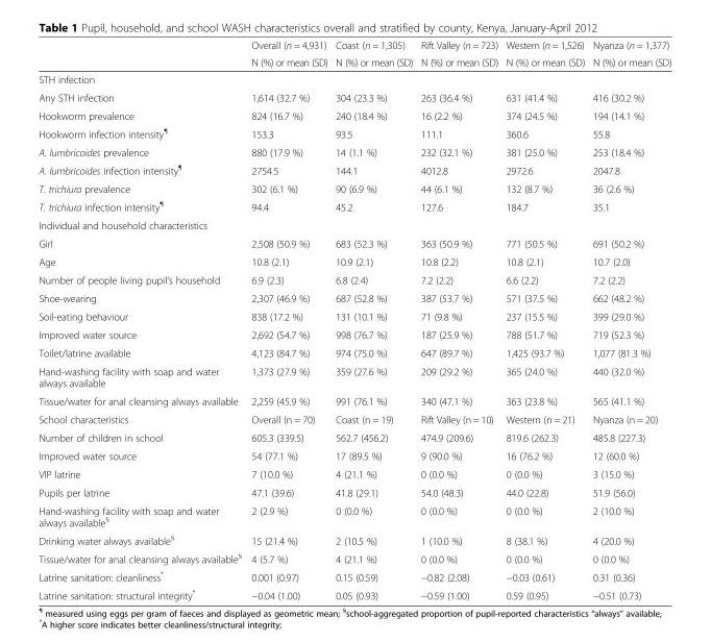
<table><thead><tr><td rowspan="2"></td><td rowspan="2">Overall (n = 4,931) N (%) or mean (SD)</td><td rowspan="2">Coast (n = 1,305) N (%) or mean (SD)</td><td rowspan="2">Rift Valley (n = 723) N (%) or mean (SD)</td><td rowspan="2">Western (n = 1,526) N (%) or mean (SD)</td><td rowspan="2">Nyanza (n = 1,377) N (%) or mean (SD)</td></tr><tr></tr></thead><tbody><tr><td colspan="6">STH infection</td></tr><tr><td>Any STH infection</td><td>1,614 (32.7 %)</td><td>304 (23.3 %)</td><td>263 (36.4 %)</td><td>631 (41.4 %)</td><td>416 (30.2 %)</td></tr><tr><td>Hookworm prevalence</td><td>824 (16.7 %)</td><td>240 (18.4 %)</td><td>16 (2.2 %)</td><td>374 (24.5 %)</td><td>194 (14.1 %)</td></tr><tr><td>Hookworm infection intensity<sup>¶</sup></td><td>153.3</td><td>93.5</td><td>111.1</td><td>360.6</td><td>55.8</td></tr><tr><td>A. lumbricoides prevalence</td><td>880 (17.9 %)</td><td>14 (1.1 %)</td><td>232 (32.1 %)</td><td>381 (25.0 %)</td><td>253 (18.4 %)</td></tr><tr><td>A. lumbricoides infection intensity<sup>¶</sup></td><td>2754.5</td><td>144.1</td><td>4012.8</td><td>2972.6</td><td>2047.8</td></tr><tr><td>T. trichiura prevalence</td><td>302 (6.1 %)</td><td>90 (6.9 %)</td><td>44 (6.1 %)</td><td>132 (8.7 %)</td><td>36 (2.6 %)</td></tr><tr><td>T. trichiura infection intensity<sup>¶</sup></td><td>94.4</td><td>45.2</td><td>127.6</td><td>184.7</td><td>35.1</td></tr><tr><td colspan="6">Individual and household characteristics</td></tr><tr><td>Girl</td><td>2,508 (50.9 %)</td><td>683 (52.3 %)</td><td>363 (50.9 %)</td><td>771 (50.5 %)</td><td>691 (50.2 %)</td></tr><tr><td>Age</td><td>10.8 (2.1)</td><td>10.9 (2.1)</td><td>10.8 (2.2)</td><td>10.8 (2.1)</td><td>10.7 (2.0)</td></tr><tr><td>Number of people living pupil’s household</td><td>6.9 (2.3)</td><td>6.8 (2.4)</td><td>7.2 (2.2)</td><td>6.6 (2.2)</td><td>7.2 (2.2)</td></tr><tr><td>Shoe-wearing</td><td>2,307 (46.9 %)</td><td>687 (52.8 %)</td><td>387 (53.7 %)</td><td>571 (37.5 %)</td><td>662 (48.2 %)</td></tr><tr><td>Soil-eating behaviour</td><td>838 (17.2 %)</td><td>131 (10.1 %)</td><td>71 (9.8 %)</td><td>237 (15.5 %)</td><td>399 (29.0 %)</td></tr><tr><td>Improved water source</td><td>2,692 (54.7 %)</td><td>998 (76.7 %)</td><td>187 (25.9 %)</td><td>788 (51.7 %)</td><td>719 (52.3 %)</td></tr><tr><td>Toilet/latrine available</td><td>4,123 (84.7 %)</td><td>974 (75.0 %)</td><td>647 (89.7 %)</td><td>1,425 (93.7 %)</td><td>1,077 (81.3 %)</td></tr><tr><td>Hand-washing facility with soap and water always available</td><td>1,373 (27.9 %)</td><td>359 (27.6 %)</td><td>209 (29.2 %)</td><td>365 (24.0 %)</td><td>440 (32.0 %)</td></tr><tr><td>Tissue/water for anal cleansing always available</td><td>2,259 (45.9 %)</td><td>991 (76.1 %)</td><td>340 (47.1 %)</td><td>363 (23.8 %)</td><td>565 (41.1 %)</td></tr><tr><td>School characteristics</td><td>Overall (n = 70)</td><td>Coast (n = 19)</td><td>Rift Valley (n = 10)</td><td>Western (n = 21)</td><td>Nyanza (n = 20)</td></tr><tr><td>Number of children in school</td><td>605.3 (339.5)</td><td>562.7 (456.2)</td><td>474.9 (209.6)</td><td>819.6 (262.3)</td><td>485.8 (227.3)</td></tr><tr><td>Improved water source</td><td>54 (77.1 %)</td><td>17 (89.5 %)</td><td>9 (90.0 %)</td><td>16 (76.2 %)</td><td>12 (60.0 %)</td></tr><tr><td>VIP latrine</td><td>7 (10.0 %)</td><td>4 (21.1 %)</td><td>0 (0.0 %)</td><td>0 (0.0 %)</td><td>3 (15.0 %)</td></tr><tr><td>Pupils per latrine</td><td>47.1 (39.6)</td><td>41.8 (29.1)</td><td>54.0 (48.3)</td><td>44.0 (22.8)</td><td>51.9 (56.0)</td></tr><tr><td>Hand-washing facility with soap and water always available<sup>§</sup></td><td>2 (2.9 %)</td><td>0 (0.0 %)</td><td>0 (0.0 %)</td><td>0 (0.0 %)</td><td>2 (10.0 %)</td></tr><tr><td>Drinking water always available<sup>§</sup></td><td>15 (21.4 %)</td><td>2 (10.5 %)</td><td>1 (10.0 %)</td><td>8 (38.1 %)</td><td>4 (20.0 %)</td></tr><tr><td>Tissue/water for anal cleansing always available<sup>§</sup></td><td>4 (5.7 %)</td><td>4 (21.1 %)</td><td>0 (0.0 %)</td><td>0 (0.0 %)</td><td>0 (0.0 %)</td></tr><tr><td>Latrine sanitation: cleanliness*</td><td>0.001 (0.97)</td><td>0.15 (0.59)</td><td>−0.82 (2.08)</td><td>−0.03 (0.61)</td><td>0.31 (0.36)</td></tr><tr><td>Latrine sanitation: structural integrity*</td><td>−0.04 (1.00)</td><td>0.05 (0.93)</td><td>−0.59 (1.00)</td><td>0.59 (0.95)</td><td>−0.51 (0.73)</td></tr></tbody></table>